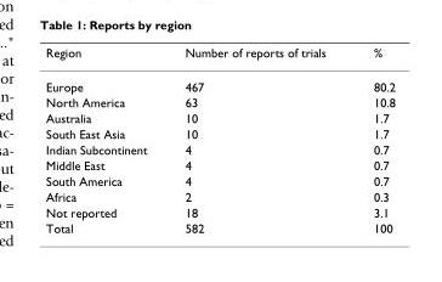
<table><thead><tr><td>Region</td><td>Number of reports of trials</td><td>%</td></tr></thead><tbody><tr><td>Europe</td><td>467</td><td>80.2</td></tr><tr><td>North America</td><td>63</td><td>10.8</td></tr><tr><td>Australia</td><td>10</td><td>1.7</td></tr><tr><td>South East Asia</td><td>10</td><td>1.7</td></tr><tr><td>Indian Subcontinent</td><td>4</td><td>0.7</td></tr><tr><td>Middle East</td><td>4</td><td>0.7</td></tr><tr><td>South America</td><td>4</td><td>0.7</td></tr><tr><td>Africa</td><td>2</td><td>0.3</td></tr><tr><td>Not reported</td><td>18</td><td>3.1</td></tr><tr><td>Total</td><td>582</td><td>100</td></tr></tbody></table>